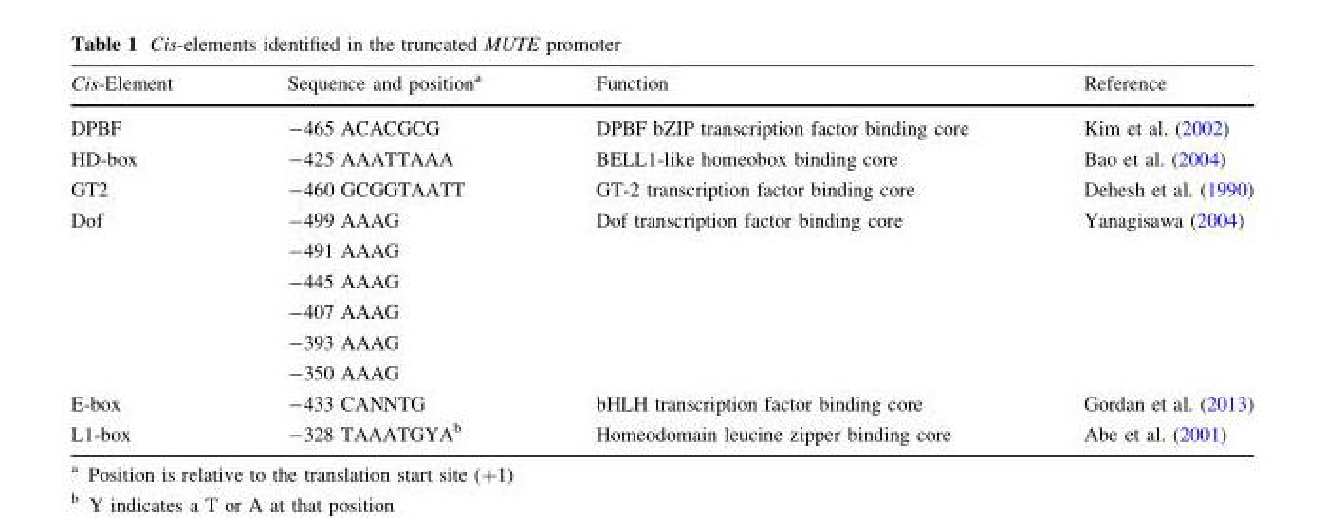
<table><thead><tr><td>Cis-Element</td><td>Sequence and position<sup>a</sup></td><td>Function</td><td>Reference</td></tr></thead><tbody><tr><td>DPBF</td><td>-465 ACACGCG</td><td>DPBF bZIP transcription factor binding core</td><td>Kim et al. (2002)</td></tr><tr><td>HD-box</td><td>-425 AAATTAAA</td><td>BELL1-like homeobox binding core</td><td>Bao et al. (2004)</td></tr><tr><td>GT2</td><td>-460 GCGGTAATT</td><td>GT-2 transcription factor binding core</td><td>Dehesh et al. (1990)</td></tr><tr><td rowspan="6">Dof</td><td>-499 AAAG</td><td rowspan="6">Dof transcription factor binding core</td><td rowspan="6">Yanagisawa (2004)</td></tr><tr><td>-491 AAAG</td></tr><tr><td>-445 AAAG</td></tr><tr><td>-407 AAAG</td></tr><tr><td>-393 AAAG</td></tr><tr><td>-350 AAAG</td></tr><tr><td>E-box</td><td>-433 CANNTG</td><td>bHLH transcription factor binding core</td><td>Gordan et al. (2013)</td></tr><tr><td>L1-box</td><td>-328 TAAATGYA<sup>b</sup></td><td>Homeodomain leucine zipper binding core</td><td>Abe et al. (2001)</td></tr></tbody></table>